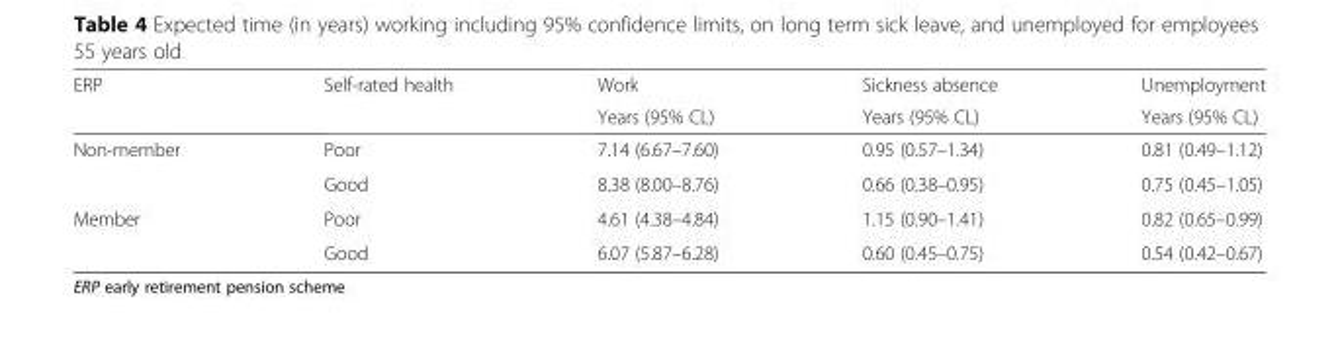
<table><thead><tr><td rowspan="2">ERP</td><td rowspan="2">Self-rated health</td><td rowspan="2">Work Years (95% CL)</td><td rowspan="2">Sickness absence Years (95% CL)</td><td rowspan="2">Unemployment Years (95% CL)</td></tr><tr></tr></thead><tbody><tr><td rowspan="2">Non-member</td><td>Poor</td><td>7.14 (6.67–7.60)</td><td>0.95 (0.57–1.34)</td><td>0.81 (0.49–1.12)</td></tr><tr><td>Good</td><td>8.38 (8.00–8.76)</td><td>0.66 (0.38–0.95)</td><td>0.75 (0.45–1.05)</td></tr><tr><td rowspan="2">Member</td><td>Poor</td><td>4.61 (4.38–4.84)</td><td>1.15 (0.90–1.41)</td><td>0.82 (0.65–0.99)</td></tr><tr><td>Good</td><td>6.07 (5.87–6.28)</td><td>0.60 (0.45–0.75)</td><td>0.54 (0.42–0.67)</td></tr></tbody></table>